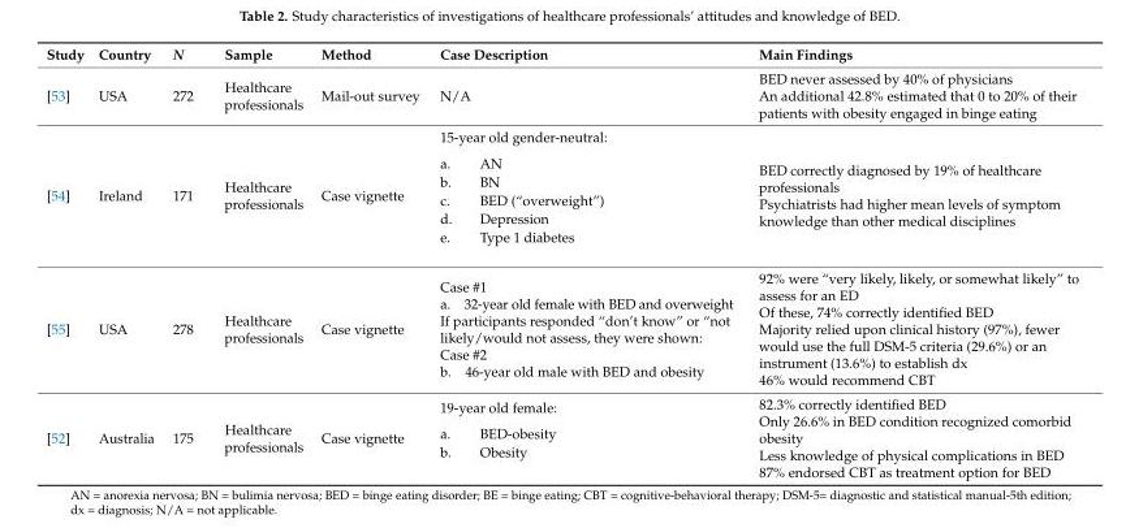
<table><thead><tr><td>Study</td><td>Country</td><td>N</td><td>Sample</td><td>Method</td><td>Case Description</td><td>Main Findings</td></tr></thead><tbody><tr><td>[53]</td><td>USA</td><td>272</td><td>Healthcare professionals</td><td>Mail-out survey</td><td>N/A</td><td>BED never assessed by 40% of physicians An additional 42.8% estimated that 0 to 20% of their patients with obesity engaged in binge eating</td></tr><tr><td>[54]</td><td>Ireland</td><td>171</td><td>Healthcare professionals</td><td>Case vignette</td><td>15-year old gender-neutral: a. AN b. BN c. BED (“overweight”) d. Depression e. Type 1 diabetes</td><td>BED correctly diagnosed by 19% of healthcare professionals Psychiatrists had higher mean levels of symptom knowledge than other medical disciplines</td></tr><tr><td>[55]</td><td>USA</td><td>278</td><td>Healthcare professionals</td><td>Case vignette</td><td>Case #1 a. 32-year old female with BED and overweight If participants responded “don’t know” or “not likely/would not assess, they were shown: Case #2 b. 46-year old male with BED and obesity</td><td>92% were “very likely, likely, or somewhat likely” to assess for an ED Of these, 74% correctly identified BED Majority relied upon clinical history (97%), fewer would use the full DSM-5 criteria (29.6%) or an instrument (13.6%) to establish dx 46% would recommend CBT</td></tr><tr><td>[52]</td><td>Australia</td><td>175</td><td>Healthcare professionals</td><td>Case vignette</td><td>19-year old female: a. BED-obesity b. Obesity</td><td>82.3% correctly identified BED Only 26.6% in BED condition recognized comorbid obesity Less knowledge of physical complications in BED 87% endorsed CBT as treatment option for BED</td></tr></tbody></table>